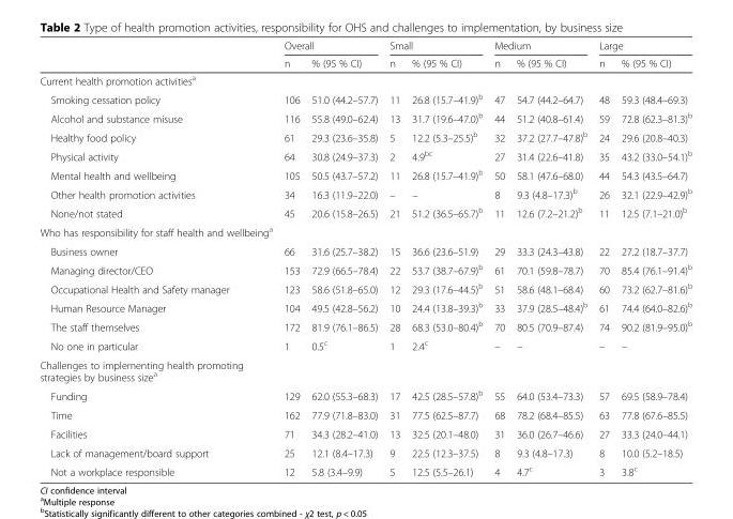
<table><thead><tr><td rowspan="2"></td><td colspan="2">Overall</td><td colspan="2">Small</td><td colspan="2">Medium</td><td colspan="2">Large</td></tr><tr><td>n</td><td>% (95 % CI)</td><td>n</td><td>% (95 % CI)</td><td>n</td><td>% (95 % CI)</td><td>n</td><td>% (95 % CI)</td></tr></thead><tbody><tr><td colspan="9">Current health promotion activities<sup>a</sup></td></tr><tr><td>Smoking cessation policy</td><td>106</td><td>51.0 (44.2–57.7)</td><td>11</td><td>26.8 (15.7–41.9)<sup>b</sup></td><td>47</td><td>54.7 (44.2–64.7)</td><td>48</td><td>59.3 (48.4–69.3)</td></tr><tr><td>Alcohol and substance misuse</td><td>116</td><td>55.8 (49.0–62.4)</td><td>13</td><td>31.7 (19.6–47.0)<sup>b</sup></td><td>44</td><td>51.2 (40.8–61.4)</td><td>59</td><td>72.8 (62.3–81.3)<sup>b</sup></td></tr><tr><td>Healthy food policy</td><td>61</td><td>29.3 (23.6–35.8)</td><td>5</td><td>12.2 (5.3–25.5)<sup>b</sup></td><td>32</td><td>37.2 (27.7–47.8)<sup>b</sup></td><td>24</td><td>29.6 (20.8–40.3)</td></tr><tr><td>Physical activity</td><td>64</td><td>30.8 (24.9–37.3)</td><td>2</td><td>4.9<sup>bc</sup></td><td>27</td><td>31.4 (22.6–41.8)</td><td>35</td><td>43.2 (33.0–54.1)<sup>b</sup></td></tr><tr><td>Mental health and wellbeing</td><td>105</td><td>50.5 (43.7–57.2)</td><td>11</td><td>26.8 (15.7–41.9)<sup>b</sup></td><td>50</td><td>58.1 (47.6–68.0)</td><td>44</td><td>54.3 (43.5–64.7)</td></tr><tr><td>Other health promotion activities</td><td>34</td><td>16.3 (11.9–22.0)</td><td>–</td><td>–</td><td>8</td><td>9.3 (4.8–17.3)<sup>b</sup></td><td>26</td><td>32.1 (22.9–42.9)<sup>b</sup></td></tr><tr><td>None/not stated</td><td>45</td><td>20.6 (15.8–26.5)</td><td>21</td><td>51.2 (36.5–65.7)<sup>b</sup></td><td>11</td><td>12.6 (7.2–21.2)<sup>b</sup></td><td>11</td><td>12.5 (7.1–21.0)<sup>b</sup></td></tr><tr><td colspan="9">Who has responsibility for staff health and wellbeing<sup>a</sup></td></tr><tr><td>Business owner</td><td>66</td><td>31.6 (25.7–38.2)</td><td>15</td><td>36.6 (23.6–51.9)</td><td>29</td><td>33.3 (24.3–43.8)</td><td>22</td><td>27.2 (18.7–37.7)</td></tr><tr><td>Managing director/CEO</td><td>153</td><td>72.9 (66.5–78.4)</td><td>22</td><td>53.7 (38.7–67.9)<sup>b</sup></td><td>61</td><td>70.1 (59.8–78.7)</td><td>70</td><td>85.4 (76.1–91.4)<sup>b</sup></td></tr><tr><td>Occupational Health and Safety manager</td><td>123</td><td>58.6 (51.8–65.0)</td><td>12</td><td>29.3 (17.6–44.5)<sup>b</sup></td><td>51</td><td>58.6 (48.1–68.4)</td><td>60</td><td>73.2 (62.7–81.6)<sup>b</sup></td></tr><tr><td>Human Resource Manager</td><td>104</td><td>49.5 (42.8–56.2)</td><td>10</td><td>24.4 (13.8–39.3)<sup>b</sup></td><td>33</td><td>37.9 (28.5–48.4)<sup>b</sup></td><td>61</td><td>74.4 (64.0–82.6)<sup>b</sup></td></tr><tr><td>The staff themselves</td><td>172</td><td>81.9 (76.1–86.5)</td><td>28</td><td>68.3 (53.0–80.4)<sup>b</sup></td><td>70</td><td>80.5 (70.9–87.4)</td><td>74</td><td>90.2 (81.9–95.0)<sup>b</sup></td></tr><tr><td>No one in particular</td><td>1</td><td>0.5<sup>c</sup></td><td>1</td><td>2.4<sup>c</sup></td><td>–</td><td>–</td><td>–</td><td>–</td></tr><tr><td colspan="9">Challenges to implementing health promoting strategies by business size<sup>a</sup></td></tr><tr><td>Funding</td><td>129</td><td>62.0 (55.3–68.3)</td><td>17</td><td>42.5 (28.5–57.8)<sup>b</sup></td><td>55</td><td>64.0 (53.4–73.3)</td><td>57</td><td>69.5 (58.9–78.4)</td></tr><tr><td>Time</td><td>162</td><td>77.9 (71.8–83.0)</td><td>31</td><td>77.5 (62.5–87.7)</td><td>68</td><td>78.2 (68.4–85.5)</td><td>63</td><td>77.8 (67.6–85.5)</td></tr><tr><td>Facilities</td><td>71</td><td>34.3 (28.2–41.0)</td><td>13</td><td>32.5 (20.1–48.0)</td><td>31</td><td>36.0 (26.7–46.6)</td><td>27</td><td>33.3 (24.0–44.1)</td></tr><tr><td>Lack of management/board support</td><td>25</td><td>12.1 (8.4–17.3)</td><td>9</td><td>22.5 (12.3–37.5)</td><td>8</td><td>9.3 (4.8–17.3)</td><td>8</td><td>10.0 (5.2–18.5)</td></tr><tr><td>Not a workplace responsible</td><td>12</td><td>5.8 (3.4–9.9)</td><td>5</td><td>12.5 (5.5–26.1)</td><td>4</td><td>4.7<sup>c</sup></td><td>3</td><td>3.8<sup>c</sup></td></tr></tbody></table>